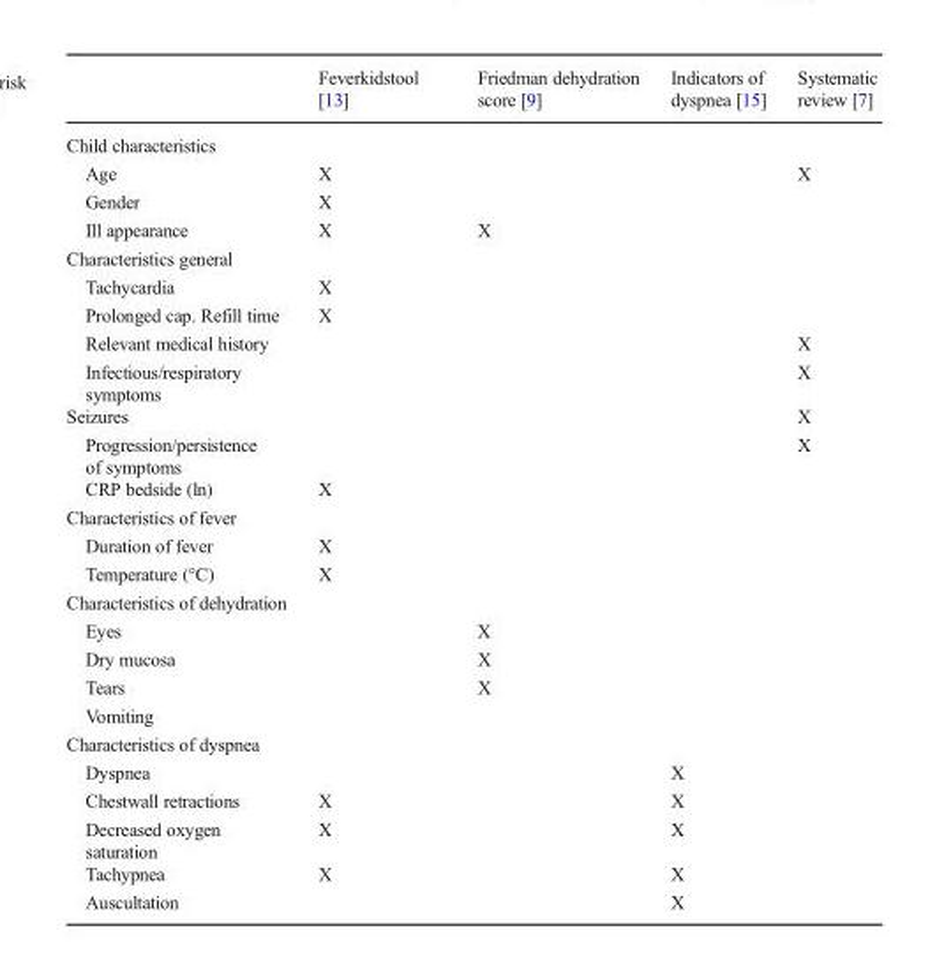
<table><thead><tr><td></td><td>Feverkidstool [13]</td><td>Friedman dehydration score [9]</td><td>Indicators of dyspnea [15]</td><td>Systematic review [7]</td></tr></thead><tbody><tr><td colspan="5">Child characteristics</td></tr><tr><td>Age</td><td>X</td><td></td><td></td><td>X</td></tr><tr><td>Gender</td><td>X</td><td></td><td></td><td></td></tr><tr><td>Ill appearance</td><td>X</td><td>X</td><td></td><td></td></tr><tr><td colspan="5">Characteristics general</td></tr><tr><td>Tachycardia</td><td>X</td><td></td><td></td><td></td></tr><tr><td>Prolonged cap. Refill time</td><td>X</td><td></td><td></td><td></td></tr><tr><td>Relevant medical history</td><td></td><td></td><td></td><td>X</td></tr><tr><td>Infectious/respiratory symptoms</td><td></td><td></td><td></td><td>X</td></tr><tr><td>Seizures</td><td></td><td></td><td></td><td>X</td></tr><tr><td>Progression/persistence of symptoms</td><td></td><td></td><td></td><td>X</td></tr><tr><td>CRP bedside (ln)</td><td>X</td><td></td><td></td><td></td></tr><tr><td colspan="5">Characteristics of fever</td></tr><tr><td>Duration of fever</td><td>X</td><td></td><td></td><td></td></tr><tr><td>Temperature (°C)</td><td>X</td><td></td><td></td><td></td></tr><tr><td colspan="5">Characteristics of dehydration</td></tr><tr><td>Eyes</td><td></td><td>X</td><td></td><td></td></tr><tr><td>Dry mucosa</td><td></td><td>X</td><td></td><td></td></tr><tr><td>Tears</td><td></td><td>X</td><td></td><td></td></tr><tr><td colspan="5">Vomiting</td></tr><tr><td colspan="5">Characteristics of dyspnea</td></tr><tr><td>Dyspnea</td><td></td><td></td><td>X</td><td></td></tr><tr><td>Chestwall retractions</td><td>X</td><td></td><td>X</td><td></td></tr><tr><td>Decreased oxygen saturation</td><td>X</td><td></td><td>X</td><td></td></tr><tr><td>Tachypnea</td><td>X</td><td></td><td>X</td><td></td></tr><tr><td>Auscultation</td><td></td><td></td><td>X</td><td></td></tr></tbody></table>